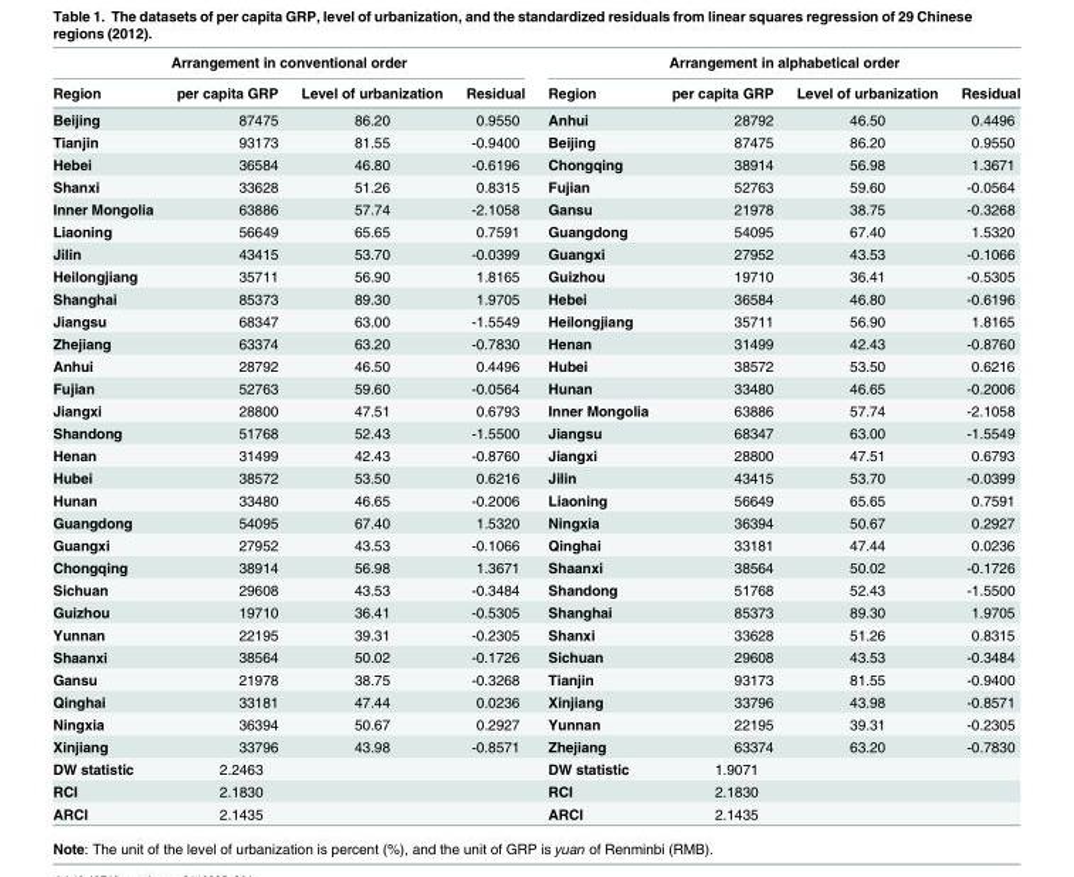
<table><thead><tr><td colspan="4">Arrangement in conventional order</td><td colspan="4">Arrangement in alphabetical order</td></tr><tr><td>Region</td><td>per capita GRP</td><td>Level of urbanization</td><td>Residual</td><td>Region</td><td>per capita GRP</td><td>Level of urbanization</td><td>Residual</td></tr></thead><tbody><tr><td>Beijing</td><td>87475</td><td>86.20</td><td>0.9550</td><td>Anhui</td><td>28792</td><td>46.50</td><td>0.4496</td></tr><tr><td>Tianjin</td><td>93173</td><td>81.55</td><td>-0.9400</td><td>Beijing</td><td>87475</td><td>86.20</td><td>0.9550</td></tr><tr><td>Hebei</td><td>36584</td><td>46.80</td><td>-0.6196</td><td>Chongqing</td><td>38914</td><td>56.98</td><td>1.3671</td></tr><tr><td>Shanxi</td><td>33628</td><td>51.26</td><td>0.8315</td><td>Fujian</td><td>52763</td><td>59.60</td><td>-0.0564</td></tr><tr><td>Inner Mongolia</td><td>63886</td><td>57.74</td><td>-2.1058</td><td>Gansu</td><td>21978</td><td>38.75</td><td>-0.3268</td></tr><tr><td>Liaoning</td><td>56649</td><td>65.65</td><td>0.7591</td><td>Guangdong</td><td>54095</td><td>67.40</td><td>1.5320</td></tr><tr><td>Jilin</td><td>43415</td><td>53.70</td><td>-0.0399</td><td>Guangxi</td><td>27952</td><td>43.53</td><td>-0.1066</td></tr><tr><td>Heilongjiang</td><td>35711</td><td>56.90</td><td>1.8165</td><td>Guizhou</td><td>19710</td><td>36.41</td><td>-0.5305</td></tr><tr><td>Shanghai</td><td>85373</td><td>89.30</td><td>1.9705</td><td>Hebei</td><td>36584</td><td>46.80</td><td>-0.6196</td></tr><tr><td>Jiangsu</td><td>68347</td><td>63.00</td><td>-1.5549</td><td>Heilongjiang</td><td>35711</td><td>56.90</td><td>1.8165</td></tr><tr><td>Zhejiang</td><td>63374</td><td>63.20</td><td>-0.7830</td><td>Henan</td><td>31499</td><td>42.43</td><td>-0.8760</td></tr><tr><td>Anhui</td><td>28792</td><td>46.50</td><td>0.4496</td><td>Hubei</td><td>38572</td><td>53.50</td><td>0.6216</td></tr><tr><td>Fujian</td><td>52763</td><td>59.60</td><td>-0.0564</td><td>Hunan</td><td>33480</td><td>46.65</td><td>-0.2006</td></tr><tr><td>Jiangxi</td><td>28800</td><td>47.51</td><td>0.6793</td><td>Inner Mongolia</td><td>63886</td><td>57.74</td><td>-2.1058</td></tr><tr><td>Shandong</td><td>51768</td><td>52.43</td><td>-1.5500</td><td>Jiangsu</td><td>68347</td><td>63.00</td><td>-1.5549</td></tr><tr><td>Henan</td><td>31499</td><td>42.43</td><td>-0.8760</td><td>Jiangxi</td><td>28800</td><td>47.51</td><td>0.6793</td></tr><tr><td>Hubei</td><td>38572</td><td>53.50</td><td>0.6216</td><td>Jilin</td><td>43415</td><td>53.70</td><td>-0.0399</td></tr><tr><td>Hunan</td><td>33480</td><td>46.65</td><td>-0.2006</td><td>Liaoning</td><td>56649</td><td>65.65</td><td>0.7591</td></tr><tr><td>Guangdong</td><td>54095</td><td>67.40</td><td>1.5320</td><td>Ningxia</td><td>36394</td><td>50.67</td><td>0.2927</td></tr><tr><td>Guangxi</td><td>27952</td><td>43.53</td><td>-0.1066</td><td>Qinghai</td><td>33181</td><td>47.44</td><td>0.0236</td></tr><tr><td>Chongqing</td><td>38914</td><td>56.98</td><td>1.3671</td><td>Shaanxi</td><td>38564</td><td>50.02</td><td>-0.1726</td></tr><tr><td>Sichuan</td><td>29608</td><td>43.53</td><td>-0.3484</td><td>Shandong</td><td>51768</td><td>52.43</td><td>-1.5500</td></tr><tr><td>Guizhou</td><td>19710</td><td>36.41</td><td>-0.5305</td><td>Shanghai</td><td>85373</td><td>89.30</td><td>1.9705</td></tr><tr><td>Yunnan</td><td>22195</td><td>39.31</td><td>-0.2305</td><td>Shanxi</td><td>33628</td><td>51.26</td><td>0.8315</td></tr><tr><td>Shaanxi</td><td>38564</td><td>50.02</td><td>-0.1726</td><td>Sichuan</td><td>29608</td><td>43.53</td><td>-0.3484</td></tr><tr><td>Gansu</td><td>21978</td><td>38.75</td><td>-0.3268</td><td>Tianjin</td><td>93173</td><td>81.55</td><td>-0.9400</td></tr><tr><td>Qinghai</td><td>33181</td><td>47.44</td><td>0.0236</td><td>Xinjiang</td><td>33796</td><td>43.98</td><td>-0.8571</td></tr><tr><td>Ningxia</td><td>36394</td><td>50.67</td><td>0.2927</td><td>Yunnan</td><td>22195</td><td>39.31</td><td>-0.2305</td></tr><tr><td>Xinjiang</td><td>33796</td><td>43.98</td><td>-0.8571</td><td>Zhejiang</td><td>63374</td><td>63.20</td><td>-0.7830</td></tr><tr><td>DW statistic</td><td colspan="3">2.2463</td><td>DW statistic</td><td colspan="3">1.9071</td></tr><tr><td>RCI</td><td colspan="3">2.1830</td><td>RCI</td><td colspan="3">2.1830</td></tr><tr><td>ARCI</td><td colspan="3">2.1435</td><td>ARCI</td><td colspan="3">2.1435</td></tr></tbody></table>